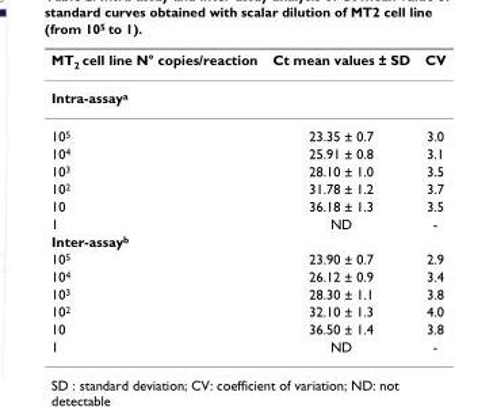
<table><thead><tr><td>MT<sub>2</sub> cell line N° copies/reaction</td><td>Ct mean values ± SD</td><td>CV</td></tr></thead><tbody><tr><td colspan="3">Intra-assay<sup>a</sup></td></tr><tr><td>10<sup>5</sup></td><td>23.35 ± 0.7</td><td>3.0</td></tr><tr><td>10<sup>4</sup></td><td>25.91 ± 0.8</td><td>3.1</td></tr><tr><td>10<sup>3</sup></td><td>28.10 ± 1.0</td><td>3.5</td></tr><tr><td>10<sup>2</sup></td><td>31.78 ± 1.2</td><td>3.7</td></tr><tr><td>10</td><td>36.18 ± 1.3</td><td>3.5</td></tr><tr><td>1</td><td>ND</td><td>-</td></tr><tr><td colspan="3">Inter-assay<sup>b</sup></td></tr><tr><td>10<sup>5</sup></td><td>23.90 ± 0.7</td><td>2.9</td></tr><tr><td>10<sup>4</sup></td><td>26.12 ± 0.9</td><td>3.4</td></tr><tr><td>10<sup>3</sup></td><td>28.30 ± 1.1</td><td>3.8</td></tr><tr><td>10<sup>2</sup></td><td>32.10 ± 1.3</td><td>4.0</td></tr><tr><td>10</td><td>36.50 ± 1.4</td><td>3.8</td></tr><tr><td>1</td><td>ND</td><td>-</td></tr></tbody></table>